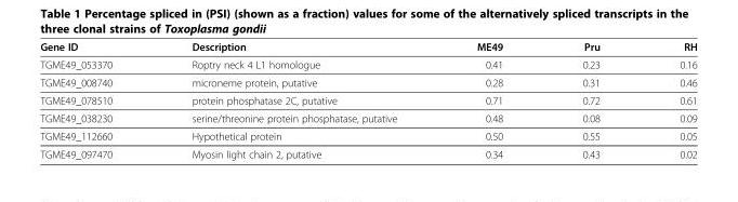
<table><thead><tr><td>Gene ID</td><td>Description</td><td>ME49</td><td>Pru</td><td>RH</td></tr></thead><tbody><tr><td>TGME49_053370</td><td>Roptry neck 4 L1 homologue</td><td>0.41</td><td>0.23</td><td>0.16</td></tr><tr><td>TGME49_008740</td><td>microneme protein, putative</td><td>0.28</td><td>0.31</td><td>0.46</td></tr><tr><td>TGME49_078510</td><td>protein phosphatase 2C, putative</td><td>0.71</td><td>0.72</td><td>0.61</td></tr><tr><td>TGME49_038230</td><td>serine/threonine protein phosphatase, putative</td><td>0.48</td><td>0.08</td><td>0.09</td></tr><tr><td>TGME49_112660</td><td>Hypothetical protein</td><td>0.50</td><td>0.55</td><td>0.05</td></tr><tr><td>TGME49_097470</td><td>Myosin light chain 2, putative</td><td>0.34</td><td>0.43</td><td>0.02</td></tr></tbody></table>